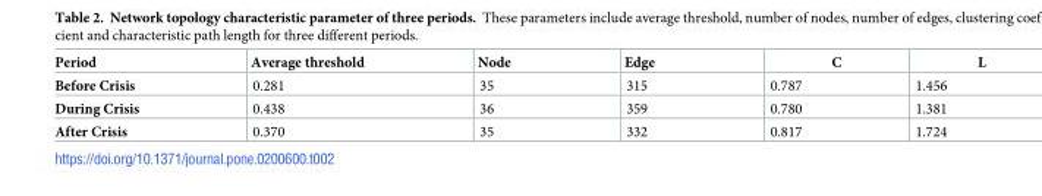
<table><thead><tr><td>Period</td><td>Average threshold</td><td>Node</td><td>Edge</td><td>C</td><td>L</td></tr></thead><tbody><tr><td>Before Crisis</td><td>0.281</td><td>35</td><td>315</td><td>0.787</td><td>1.456</td></tr><tr><td>During Crisis</td><td>0.438</td><td>36</td><td>359</td><td>0.780</td><td>1.381</td></tr><tr><td>After Crisis</td><td>0.370</td><td>35</td><td>332</td><td>0.817</td><td>1.724</td></tr></tbody></table>